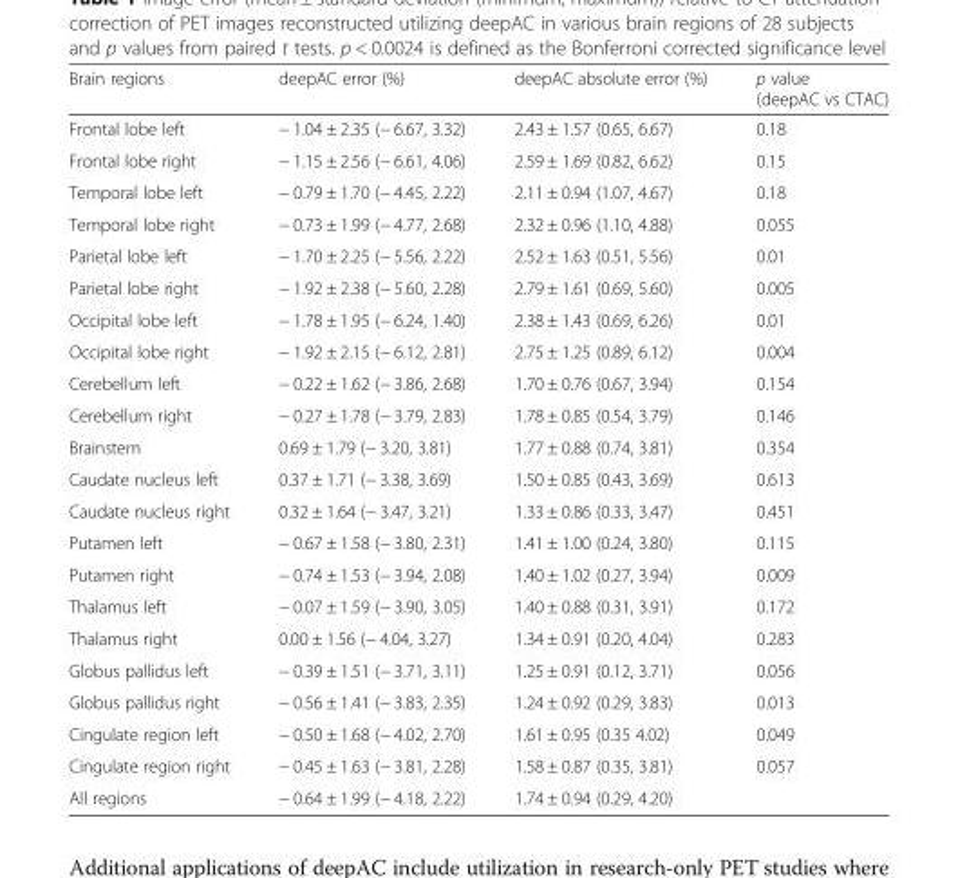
<table><thead><tr><td>Brain regions</td><td>deepAC error (%)</td><td>deepAC absolute error (%)</td><td>p value (deepAC vs CTAC)</td></tr></thead><tbody><tr><td>Frontal lobe left</td><td>− 1.04 ± 2.35 (− 6.67, 3.32)</td><td>2.43 ± 1.57 (0.65, 6.67)</td><td>0.18</td></tr><tr><td>Frontal lobe right</td><td>− 1.15 ± 2.56 (− 6.61, 4.06)</td><td>2.59 ± 1.69 (0.82, 6.62)</td><td>0.15</td></tr><tr><td>Temporal lobe left</td><td>− 0.79 ± 1.70 (− 4.45, 2.22)</td><td>2.11 ± 0.94 (1.07, 4.67)</td><td>0.18</td></tr><tr><td>Temporal lobe right</td><td>− 0.73 ± 1.99 (− 4.77, 2.68)</td><td>2.32 ± 0.96 (1.10, 4.88)</td><td>0.055</td></tr><tr><td>Parietal lobe left</td><td>− 1.70 ± 2.25 (− 5.56, 2.22)</td><td>2.52 ± 1.63 (0.51, 5.56)</td><td>0.01</td></tr><tr><td>Parietal lobe right</td><td>− 1.92 ± 2.38 (− 5.60, 2.28)</td><td>2.79 ± 1.61 (0.69, 5.60)</td><td>0.005</td></tr><tr><td>Occipital lobe left</td><td>− 1.78 ± 1.95 (− 6.24, 1.40)</td><td>2.38 ± 1.43 (0.69, 6.26)</td><td>0.01</td></tr><tr><td>Occipital lobe right</td><td>− 1.92 ± 2.15 (− 6.12, 2.81)</td><td>2.75 ± 1.25 (0.89, 6.12)</td><td>0.004</td></tr><tr><td>Cerebellum left</td><td>− 0.22 ± 1.62 (− 3.86, 2.68)</td><td>1.70 ± 0.76 (0.67, 3.94)</td><td>0.154</td></tr><tr><td>Cerebellum right</td><td>− 0.27 ± 1.78 (− 3.79, 2.83)</td><td>1.78 ± 0.85 (0.54, 3.79)</td><td>0.146</td></tr><tr><td>Brainstem</td><td>0.69 ± 1.79 (− 3.20, 3.81)</td><td>1.77 ± 0.88 (0.74, 3.81)</td><td>0.354</td></tr><tr><td>Caudate nucleus left</td><td>0.37 ± 1.71 (− 3.38, 3.69)</td><td>1.50 ± 0.85 (0.43, 3.69)</td><td>0.613</td></tr><tr><td>Caudate nucleus right</td><td>0.32 ± 1.64 (− 3.47, 3.21)</td><td>1.33 ± 0.86 (0.33, 3.47)</td><td>0.451</td></tr><tr><td>Putamen left</td><td>− 0.67 ± 1.58 (− 3.80, 2.31)</td><td>1.41 ± 1.00 (0.24, 3.80)</td><td>0.115</td></tr><tr><td>Putamen right</td><td>− 0.74 ± 1.53 (− 3.94, 2.08)</td><td>1.40 ± 1.02 (0.27, 3.94)</td><td>0.009</td></tr><tr><td>Thalamus left</td><td>− 0.07 ± 1.59 (− 3.90, 3.05)</td><td>1.40 ± 0.88 (0.31, 3.91)</td><td>0.172</td></tr><tr><td>Thalamus right</td><td>0.00 ± 1.56 (− 4.04, 3.27)</td><td>1.34 ± 0.91 (0.20, 4.04)</td><td>0.283</td></tr><tr><td>Globus pallidus left</td><td>− 0.39 ± 1.51 (− 3.71, 3.11)</td><td>1.25 ± 0.91 (0.12, 3.71)</td><td>0.056</td></tr><tr><td>Globus pallidus right</td><td>− 0.56 ± 1.41 (− 3.83, 2.35)</td><td>1.24 ± 0.92 (0.29, 3.83)</td><td>0.013</td></tr><tr><td>Cingulate region left</td><td>− 0.50 ± 1.68 (− 4.02, 2.70)</td><td>1.61 ± 0.95 (0.35 4.02)</td><td>0.049</td></tr><tr><td>Cingulate region right</td><td>− 0.45 ± 1.63 (− 3.81, 2.28)</td><td>1.58 ± 0.87 (0.35, 3.81)</td><td>0.057</td></tr><tr><td>All regions</td><td>− 0.64 ± 1.99 (− 4.18, 2.22)</td><td>1.74 ± 0.94 (0.29, 4.20)</td><td></td></tr></tbody></table>